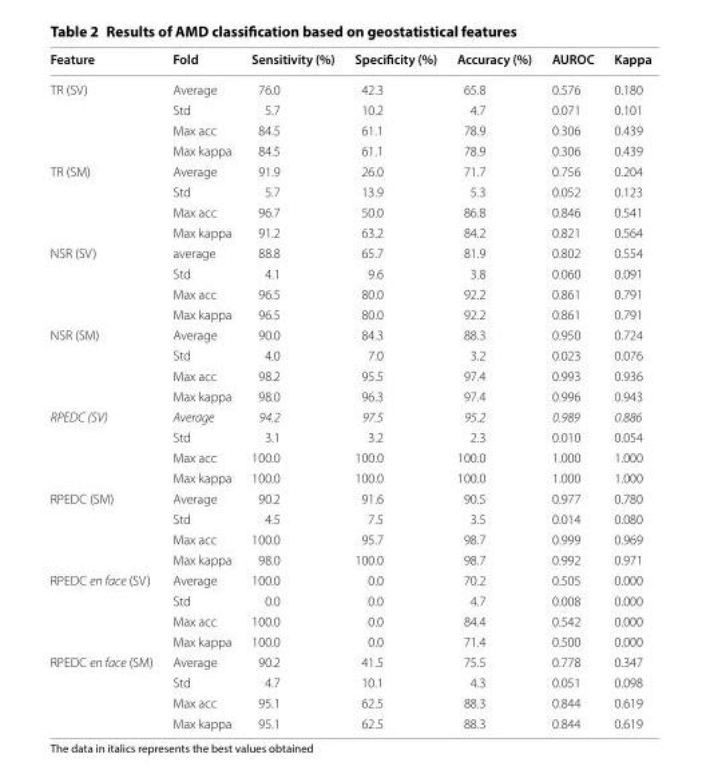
<table><thead><tr><td>Feature</td><td>Fold</td><td>Sensitivity (%)</td><td>Specificity (%)</td><td>Accuracy (%)</td><td>AUROC</td><td>Kappa</td></tr></thead><tbody><tr><td rowspan="4">TR (SV)</td><td>Average</td><td>76.0</td><td>42.3</td><td>65.8</td><td>0.576</td><td>0.180</td></tr><tr><td>Std</td><td>5.7</td><td>10.2</td><td>4.7</td><td>0.071</td><td>0.101</td></tr><tr><td>Max acc</td><td>84.5</td><td>61.1</td><td>78.9</td><td>0.306</td><td>0.439</td></tr><tr><td>Max kappa</td><td>84.5</td><td>61.1</td><td>78.9</td><td>0.306</td><td>0.439</td></tr><tr><td rowspan="4">TR (SM)</td><td>Average</td><td>91.9</td><td>26.0</td><td>71.7</td><td>0.756</td><td>0.204</td></tr><tr><td>Std</td><td>5.7</td><td>13.9</td><td>5.3</td><td>0.052</td><td>0.123</td></tr><tr><td>Max acc</td><td>96.7</td><td>50.0</td><td>86.8</td><td>0.846</td><td>0.541</td></tr><tr><td>Max kappa</td><td>91.2</td><td>63.2</td><td>84.2</td><td>0.821</td><td>0.564</td></tr><tr><td rowspan="4">NSR (SV)</td><td>average</td><td>88.8</td><td>65.7</td><td>81.9</td><td>0.802</td><td>0.554</td></tr><tr><td>Std</td><td>4.1</td><td>9.6</td><td>3.8</td><td>0.060</td><td>0.091</td></tr><tr><td>Max acc</td><td>96.5</td><td>80.0</td><td>92.2</td><td>0.861</td><td>0.791</td></tr><tr><td>Max kappa</td><td>96.5</td><td>80.0</td><td>92.2</td><td>0.861</td><td>0.791</td></tr><tr><td rowspan="4">NSR (SM)</td><td>Average</td><td>90.0</td><td>84.3</td><td>88.3</td><td>0.950</td><td>0.724</td></tr><tr><td>Std</td><td>4.0</td><td>7.0</td><td>3.2</td><td>0.023</td><td>0.076</td></tr><tr><td>Max acc</td><td>98.2</td><td>95.5</td><td>97.4</td><td>0.993</td><td>0.936</td></tr><tr><td>Max kappa</td><td>98.0</td><td>96.3</td><td>97.4</td><td>0.996</td><td>0.943</td></tr><tr><td rowspan="4">RPEDC (SV)</td><td>Average</td><td>94.2</td><td>97.5</td><td>95.2</td><td>0.989</td><td>0.886</td></tr><tr><td>Std</td><td>3.1</td><td>3.2</td><td>2.3</td><td>0.010</td><td>0.054</td></tr><tr><td>Max acc</td><td>100.0</td><td>100.0</td><td>100.0</td><td>1.000</td><td>1.000</td></tr><tr><td>Max kappa</td><td>100.0</td><td>100.0</td><td>100.0</td><td>1.000</td><td>1.000</td></tr><tr><td rowspan="4">RPEDC (SM)</td><td>Average</td><td>90.2</td><td>91.6</td><td>90.5</td><td>0.977</td><td>0.780</td></tr><tr><td>Std</td><td>4.5</td><td>7.5</td><td>3.5</td><td>0.014</td><td>0.080</td></tr><tr><td>Max acc</td><td>100.0</td><td>95.7</td><td>98.7</td><td>0.999</td><td>0.969</td></tr><tr><td>Max kappa</td><td>98.0</td><td>100.0</td><td>98.7</td><td>0.992</td><td>0.971</td></tr><tr><td rowspan="4">RPEDC en face (SV)</td><td>Average</td><td>100.0</td><td>0.0</td><td>70.2</td><td>0.505</td><td>0.000</td></tr><tr><td>Std</td><td>0.0</td><td>0.0</td><td>4.7</td><td>0.008</td><td>0.000</td></tr><tr><td>Max acc</td><td>100.0</td><td>0.0</td><td>84.4</td><td>0.542</td><td>0.000</td></tr><tr><td>Max kappa</td><td>100.0</td><td>0.0</td><td>71.4</td><td>0.500</td><td>0.000</td></tr><tr><td rowspan="4">RPEDC en face (SM)</td><td>Average</td><td>90.2</td><td>41.5</td><td>75.5</td><td>0.778</td><td>0.347</td></tr><tr><td>Std</td><td>4.7</td><td>10.1</td><td>4.3</td><td>0.051</td><td>0.098</td></tr><tr><td>Max acc</td><td>95.1</td><td>62.5</td><td>88.3</td><td>0.844</td><td>0.619</td></tr><tr><td>Max kappa</td><td>95.1</td><td>62.5</td><td>88.3</td><td>0.844</td><td>0.619</td></tr></tbody></table>